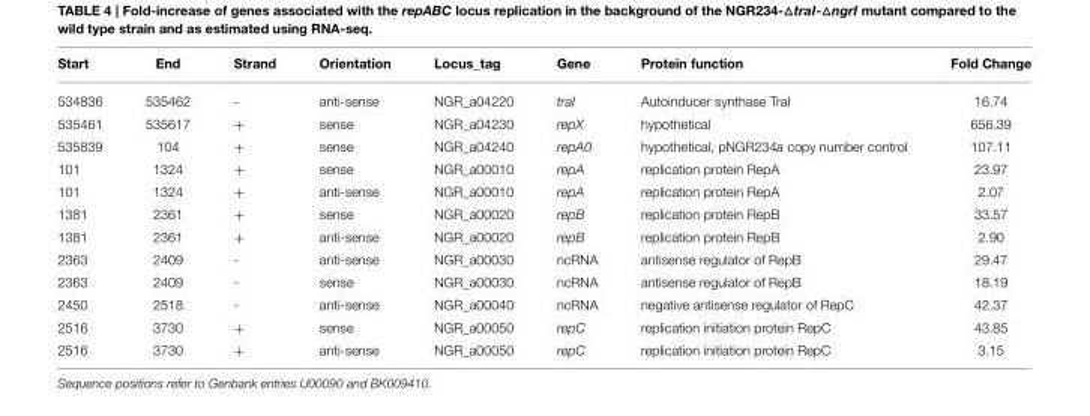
<table><thead><tr><td>Start</td><td>End</td><td>Strand</td><td>Orientation</td><td>Locus_tag</td><td>Gene</td><td>Protein function</td><td>Fold Change</td></tr></thead><tbody><tr><td>534836</td><td>535462</td><td>-</td><td>anti-sense</td><td>NGR_a04220</td><td>traI</td><td>Autoinducer synthase TraI</td><td>16.74</td></tr><tr><td>535461</td><td>535617</td><td>+</td><td>sense</td><td>NGR_a04230</td><td>repX</td><td>hypothetical</td><td>656.39</td></tr><tr><td>535839</td><td>104</td><td>+</td><td>sense</td><td>NGR_a04240</td><td>repA0</td><td>hypothetical, pNGR234a copy number control</td><td>107.11</td></tr><tr><td>101</td><td>1324</td><td>+</td><td>sense</td><td>NGR_a00010</td><td>repA</td><td>replication protein RepA</td><td>23.97</td></tr><tr><td>101</td><td>1324</td><td>+</td><td>anti-sense</td><td>NGR_a00010</td><td>repA</td><td>replication protein RepA</td><td>2.07</td></tr><tr><td>1381</td><td>2361</td><td>+</td><td>sense</td><td>NGR_a00020</td><td>repB</td><td>replication protein RepB</td><td>33.57</td></tr><tr><td>1381</td><td>2361</td><td>+</td><td>anti-sense</td><td>NGR_a00020</td><td>repB</td><td>replication protein RepB</td><td>2.90</td></tr><tr><td>2363</td><td>2409</td><td>-</td><td>anti-sense</td><td>NGR_a00030</td><td>ncRNA</td><td>antisense regulator of RepB</td><td>29.47</td></tr><tr><td>2363</td><td>2409</td><td>-</td><td>sense</td><td>NGR_a00030</td><td>ncRNA</td><td>antisense regulator of RepB</td><td>18.19</td></tr><tr><td>2450</td><td>2518</td><td>-</td><td>anti-sense</td><td>NGR_a00040</td><td>ncRNA</td><td>negative antisense regulator of RepC</td><td>42.37</td></tr><tr><td>2516</td><td>3730</td><td>+</td><td>sense</td><td>NGR_a00050</td><td>repC</td><td>replication initiation protein RepC</td><td>43.85</td></tr><tr><td>2516</td><td>3730</td><td>+</td><td>anti-sense</td><td>NGR_a00050</td><td>repC</td><td>replication initiation protein RepC</td><td>3.15</td></tr></tbody></table>